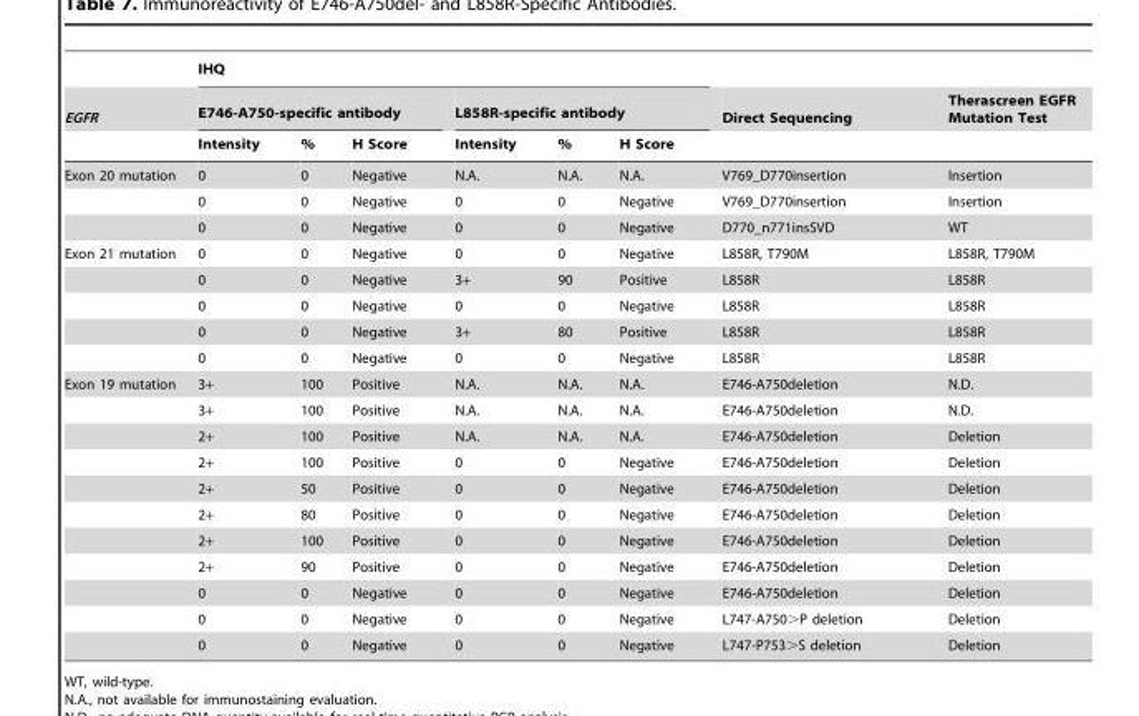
<table><thead><tr><td rowspan="3">EGFR</td><td colspan="6">IHQ</td><td rowspan="3">Direct Sequencing</td><td rowspan="3">Therascreen EGFR Mutation Test</td></tr><tr><td colspan="3">E746-A750-specific antibody</td><td colspan="3">L858R-specific antibody</td></tr><tr><td>Intensity</td><td>%</td><td>H Score</td><td>Intensity</td><td>%</td><td>H Score</td></tr></thead><tbody><tr><td rowspan="3">Exon 20 mutation</td><td>0</td><td>0</td><td>Negative</td><td>N.A.</td><td>N.A.</td><td>N.A.</td><td>V769_D770insertion</td><td>Insertion</td></tr><tr><td>0</td><td>0</td><td>Negative</td><td>0</td><td>0</td><td>Negative</td><td>V769_D770insertion</td><td>Insertion</td></tr><tr><td>0</td><td>0</td><td>Negative</td><td>0</td><td>0</td><td>Negative</td><td>D770_n771insSVD</td><td>WT</td></tr><tr><td rowspan="5">Exon 21 mutation</td><td>0</td><td>0</td><td>Negative</td><td>0</td><td>0</td><td>Negative</td><td>L858R, T790M</td><td>L858R, T790M</td></tr><tr><td>0</td><td>0</td><td>Negative</td><td>3+</td><td>90</td><td>Positive</td><td>L858R</td><td>L858R</td></tr><tr><td>0</td><td>0</td><td>Negative</td><td>0</td><td>0</td><td>Negative</td><td>L858R</td><td>L858R</td></tr><tr><td>0</td><td>0</td><td>Negative</td><td>3+</td><td>80</td><td>Positive</td><td>L858R</td><td>L858R</td></tr><tr><td>0</td><td>0</td><td>Negative</td><td>0</td><td>0</td><td>Negative</td><td>L858R</td><td>L858R</td></tr><tr><td rowspan="11">Exon 19 mutation</td><td>3+</td><td>100</td><td>Positive</td><td>N.A.</td><td>N.A.</td><td>N.A.</td><td>E746-A750deletion</td><td>N.D.</td></tr><tr><td>3+</td><td>100</td><td>Positive</td><td>N.A.</td><td>N.A.</td><td>N.A.</td><td>E746-A750deletion</td><td>N.D.</td></tr><tr><td>2+</td><td>100</td><td>Positive</td><td>N.A.</td><td>N.A.</td><td>N.A.</td><td>E746-A750deletion</td><td>Deletion</td></tr><tr><td>2+</td><td>100</td><td>Positive</td><td>0</td><td>0</td><td>Negative</td><td>E746-A750deletion</td><td>Deletion</td></tr><tr><td>2+</td><td>50</td><td>Positive</td><td>0</td><td>0</td><td>Negative</td><td>E746-A750deletion</td><td>Deletion</td></tr><tr><td>2+</td><td>80</td><td>Positive</td><td>0</td><td>0</td><td>Negative</td><td>E746-A750deletion</td><td>Deletion</td></tr><tr><td>2+</td><td>100</td><td>Positive</td><td>0</td><td>0</td><td>Negative</td><td>E746-A750deletion</td><td>Deletion</td></tr><tr><td>2+</td><td>90</td><td>Positive</td><td>0</td><td>0</td><td>Negative</td><td>E746-A750deletion</td><td>Deletion</td></tr><tr><td>0</td><td>0</td><td>Negative</td><td>0</td><td>0</td><td>Negative</td><td>E746-A750deletion</td><td>Deletion</td></tr><tr><td>0</td><td>0</td><td>Negative</td><td>0</td><td>0</td><td>Negative</td><td>L747-A750&gt;P deletion</td><td>Deletion</td></tr><tr><td>0</td><td>0</td><td>Negative</td><td>0</td><td>0</td><td>Negative</td><td>L747-P753&gt;S deletion</td><td>Deletion</td></tr></tbody></table>